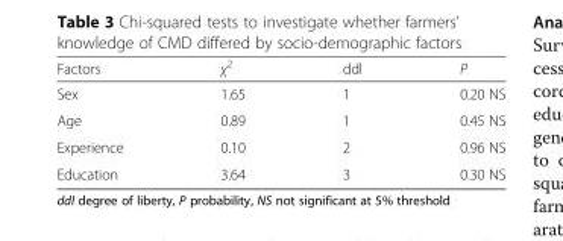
<table><thead><tr><td>Factors</td><td>χ<sup>2</sup></td><td>ddl</td><td>P</td></tr></thead><tbody><tr><td>Sex</td><td>1.65</td><td>1</td><td>0.20 NS</td></tr><tr><td>Age</td><td>0.89</td><td>1</td><td>0.45 NS</td></tr><tr><td>Experience</td><td>0.10</td><td>2</td><td>0.96 NS</td></tr><tr><td>Education</td><td>3.64</td><td>3</td><td>0.30 NS</td></tr></tbody></table>